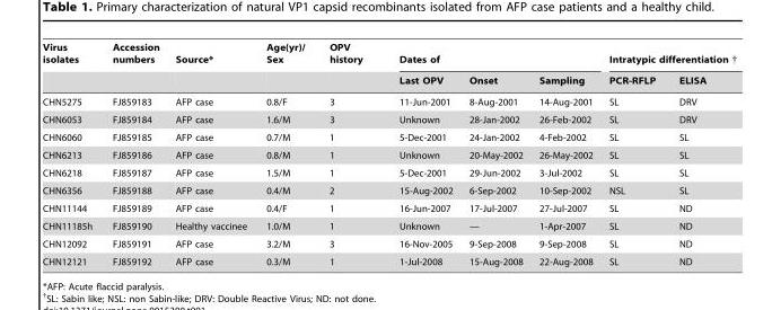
<table><thead><tr><td rowspan="2">Virus isolates</td><td rowspan="2">Accession numbers</td><td rowspan="2">Source*</td><td rowspan="2">Age(yr)/ Sex</td><td rowspan="2">OPV history</td><td colspan="3">Dates of</td><td colspan="2">Intratypic differentiation</td></tr><tr><td>Last OPV</td><td>Onset</td><td>Sampling</td><td>PCR-RFLP</td><td>ELISA</td></tr></thead><tbody><tr><td>CHN5275</td><td>FJ859183</td><td>AFP case</td><td>0.8/F</td><td>3</td><td>11-Jun-2001</td><td>8-Aug-2001</td><td>14-Aug-2001</td><td>SL</td><td>DRV</td></tr><tr><td>CHN6053</td><td>FJ859184</td><td>AFP case</td><td>1.6/M</td><td>3</td><td>Unknown</td><td>28-Jan-2002</td><td>26-Feb-2002</td><td>SL</td><td>DRV</td></tr><tr><td>CHN6060</td><td>FJ859185</td><td>AFP case</td><td>0.7/M</td><td>1</td><td>5-Dec-2001</td><td>24-Jan-2002</td><td>4-Feb-2002</td><td>SL</td><td>SL</td></tr><tr><td>CHN6213</td><td>FJ859186</td><td>AFP case</td><td>0.8/M</td><td>1</td><td>Unknown</td><td>20-May-2002</td><td>26-May-2002</td><td>SL</td><td>SL</td></tr><tr><td>CHN6218</td><td>FJ859187</td><td>AFP case</td><td>1.5/M</td><td>1</td><td>5-Dec-2001</td><td>29-Jun-2002</td><td>3-Jul-2002</td><td>SL</td><td>SL</td></tr><tr><td>CHN6356</td><td>FJ859188</td><td>AFP case</td><td>0.4/M</td><td>2</td><td>15-Aug-2002</td><td>6-Sep-2002</td><td>10-Sep-2002</td><td>NSL</td><td>SL</td></tr><tr><td>CHN11144</td><td>FJ859189</td><td>AFP case</td><td>0.4/F</td><td>1</td><td>16-Jun-2007</td><td>17-Jul-2007</td><td>27-Jul-2007</td><td>SL</td><td>ND</td></tr><tr><td>CHN11185h</td><td>FJ859190</td><td>Healthy vaccinee</td><td>1.0/M</td><td>1</td><td>Unknown</td><td>—</td><td>1-Apr-2007</td><td>SL</td><td>ND</td></tr><tr><td>CHN12092</td><td>FJ859191</td><td>AFP case</td><td>3.2/M</td><td>3</td><td>16-Nov-2005</td><td>9-Sep-2008</td><td>9-Sep-2008</td><td>SL</td><td>ND</td></tr><tr><td>CHN12121</td><td>FJ859192</td><td>AFP case</td><td>0.3/M</td><td>1</td><td>1-Jul-2008</td><td>15-Aug-2008</td><td>22-Aug-2008</td><td>SL</td><td>ND</td></tr></tbody></table>